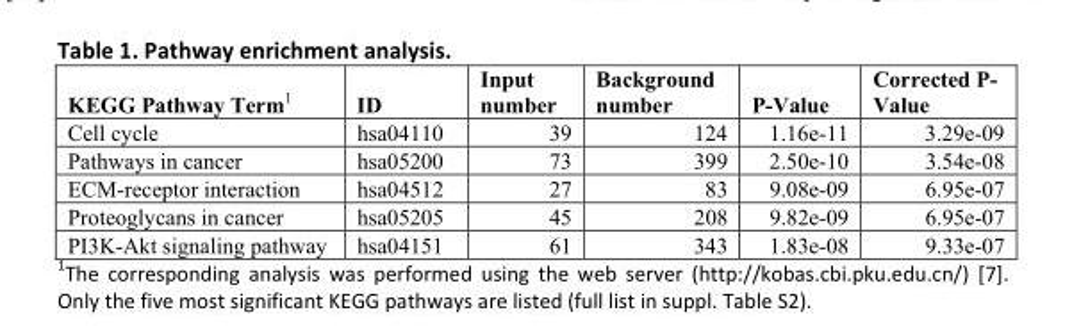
<table><tbody><tr><td>KEGG Pathway Term<sup>1</sup></td><td>ID</td><td>Input number</td><td>Background number</td><td>P-Value</td><td>Corrected P- Value</td></tr><tr><td>Cell cycle</td><td>hsa04110</td><td>39</td><td>124</td><td>1.16e-11</td><td>3.29e-09</td></tr><tr><td>Pathways in cancer</td><td>hsa05200</td><td>73</td><td>399</td><td>2.50e-10</td><td>3.54e-08</td></tr><tr><td>ECM-receptor interaction</td><td>hsa04512</td><td>27</td><td>83</td><td>9.08e-09</td><td>6.95e-07</td></tr><tr><td>Proteoglycans in cancer</td><td>hsa05205</td><td>45</td><td>208</td><td>9.82e-09</td><td>6.95e-07</td></tr><tr><td>PI3K-Akt signaling pathway</td><td>hsa04151</td><td>61</td><td>343</td><td>1.83e-08</td><td>9.33e-07</td></tr></tbody></table>